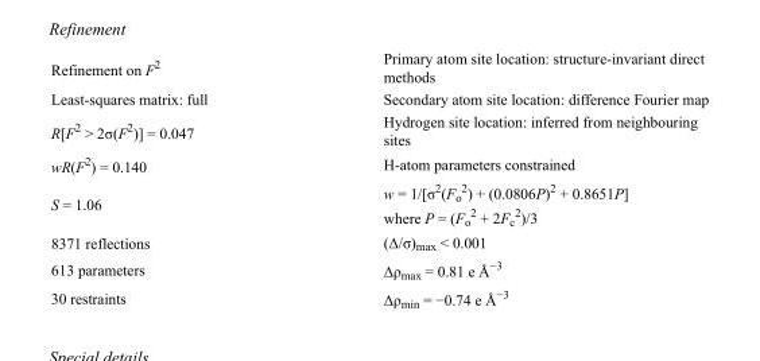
<table><tbody><tr><td>Refinement on F<sup>2</sup></td><td>Primary atom site location: structure-invariant direct methods</td></tr><tr><td>Least-squares matrix: full</td><td>Secondary atom site location: difference Fourier map</td></tr><tr><td>R[F<sup>2</sup> &gt; 2σ(F<sup>2</sup>)] = 0.047</td><td>Hydrogen site location: inferred from neighbouring sites</td></tr><tr><td>wR(F<sup>2</sup>) = 0.140</td><td>H-atom parameters constrained</td></tr><tr><td>S = 1.06</td><td>w = 1/[σ<sup>2</sup>(F<sub>o</sub> <sup>2</sup>) + (0.0806P)<sup>2</sup> + 0.8651P] where P = (F<sub>o</sub> <sup>2</sup> + 2F<sub>c</sub> <sup>2</sup>)/3</td></tr><tr><td>8371 reflections</td><td>(Δ/σ)<sub>max</sub> &lt; 0.001</td></tr><tr><td>613 parameters</td><td>Δρ<sub>max</sub> = 0.81 e Å<sup>−3</sup></td></tr><tr><td>30 restraints</td><td>Δρ<sub>min</sub> = −0.74 e Å<sup>−3</sup></td></tr></tbody></table>